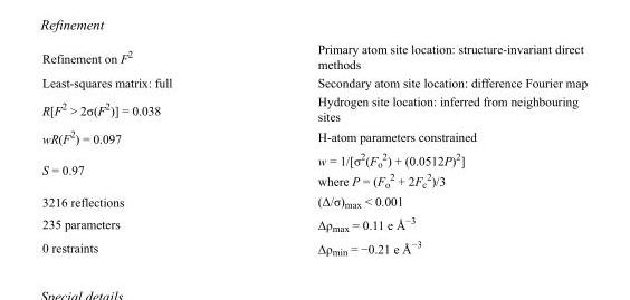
<table><tbody><tr><td>Refinement on F<sup>2</sup></td><td>Primary atom site location: structure-invariant direct methods</td></tr><tr><td>Least-squares matrix: full</td><td>Secondary atom site location: difference Fourier map</td></tr><tr><td>R[F<sup>2</sup> &gt; 2σ(F<sup>2</sup>)] = 0.038</td><td>Hydrogen site location: inferred from neighbouring sites</td></tr><tr><td>wR(F<sup>2</sup>) = 0.097</td><td>H-atom parameters constrained</td></tr><tr><td>S = 0.97</td><td>w = 1/[σ<sup>2</sup>(F<sub>o</sub> <sup>2</sup>) + (0.0512P)<sup>2</sup>] where P = (F<sub>o</sub> <sup>2</sup> + 2F<sub>c</sub> <sup>2</sup>)/3</td></tr><tr><td>3216 reflections</td><td>(Δ/σ)<sub>max</sub> &lt; 0.001</td></tr><tr><td>235 parameters</td><td>Δρ<sub>max</sub> = 0.11 e Å<sup>−3</sup></td></tr><tr><td>0 restraints</td><td>Δρmin = −0.21 e Å−3</td></tr></tbody></table>